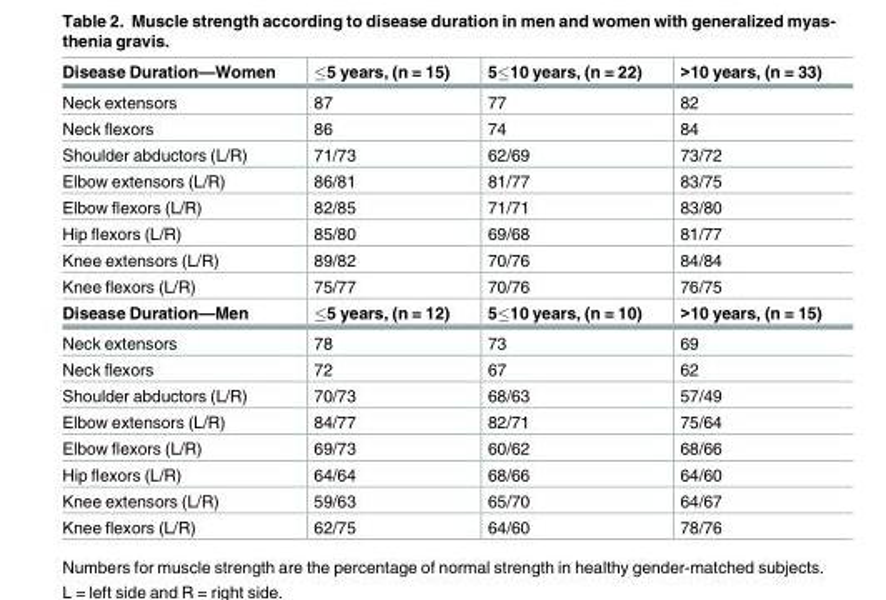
<table><tbody><tr><td>Disease Duration—Women</td><td>≤5 years, (n = 15)</td><td>5≤10 years, (n = 22)</td><td>&gt;10 years, (n = 33)</td></tr><tr><td>Neck extensors</td><td>87</td><td>77</td><td>82</td></tr><tr><td>Neck flexors</td><td>86</td><td>74</td><td>84</td></tr><tr><td>Shoulder abductors (L/R)</td><td>71/73</td><td>62/69</td><td>73/72</td></tr><tr><td>Elbow extensors (L/R)</td><td>86/81</td><td>81/77</td><td>83/75</td></tr><tr><td>Elbow flexors (L/R)</td><td>82/85</td><td>71/71</td><td>83/80</td></tr><tr><td>Hip flexors (L/R)</td><td>85/80</td><td>69/68</td><td>81/77</td></tr><tr><td>Knee extensors (L/R)</td><td>89/82</td><td>70/76</td><td>84/84</td></tr><tr><td>Knee flexors (L/R)</td><td>75/77</td><td>70/76</td><td>76/75</td></tr><tr><td>Disease Duration—Men</td><td>≤5 years, (n = 12)</td><td>5≤10 years, (n = 10)</td><td>&gt;10 years, (n = 15)</td></tr><tr><td>Neck extensors</td><td>78</td><td>73</td><td>69</td></tr><tr><td>Neck flexors</td><td>72</td><td>67</td><td>62</td></tr><tr><td>Shoulder abductors (L/R)</td><td>70/73</td><td>68/63</td><td>57/49</td></tr><tr><td>Elbow extensors (L/R)</td><td>84/77</td><td>82/71</td><td>75/64</td></tr><tr><td>Elbow flexors (L/R)</td><td>69/73</td><td>60/62</td><td>68/66</td></tr><tr><td>Hip flexors (L/R)</td><td>64/64</td><td>68/66</td><td>64/60</td></tr><tr><td>Knee extensors (L/R)</td><td>59/63</td><td>65/70</td><td>64/67</td></tr><tr><td>Knee flexors (L/R)</td><td>62/75</td><td>64/60</td><td>78/76</td></tr></tbody></table>